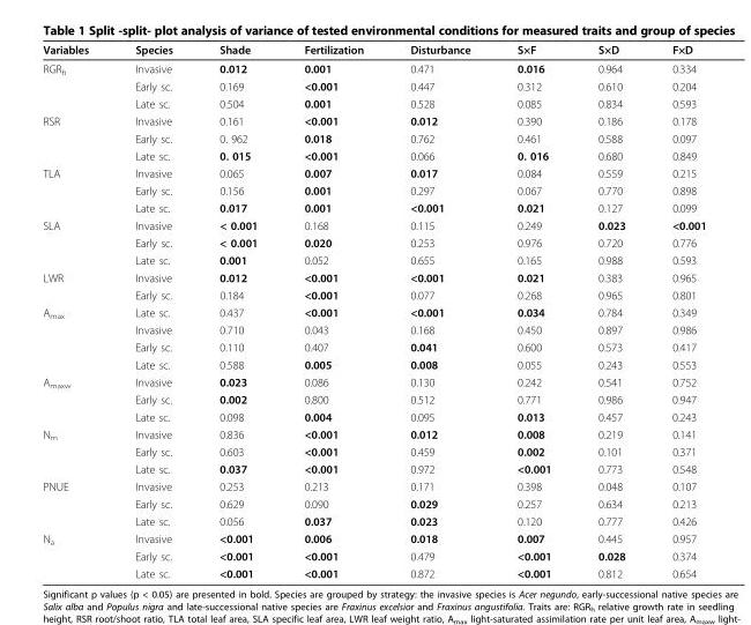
<table><thead><tr><td>Variables</td><td>Species</td><td>Shade</td><td>Fertilization</td><td>Disturbance</td><td>S×F</td><td>S×D</td><td>F×D</td></tr></thead><tbody><tr><td rowspan="3">RGR<sub>h</sub></td><td>Invasive</td><td>0.012</td><td>0.001</td><td>0.471</td><td>0.016</td><td>0.964</td><td>0.334</td></tr><tr><td>Early sc.</td><td>0.169</td><td>&lt;0.001</td><td>0.447</td><td>0.312</td><td>0.610</td><td>0.204</td></tr><tr><td>Late sc.</td><td>0.504</td><td>0.001</td><td>0.528</td><td>0.085</td><td>0.834</td><td>0.593</td></tr><tr><td rowspan="3">RSR</td><td>Invasive</td><td>0.161</td><td>&lt;0.001</td><td>0.012</td><td>0.390</td><td>0.186</td><td>0.178</td></tr><tr><td>Early sc.</td><td>0. 962</td><td>0.018</td><td>0.762</td><td>0.461</td><td>0.588</td><td>0.097</td></tr><tr><td>Late sc.</td><td>0. 015</td><td>&lt;0.001</td><td>0.066</td><td>0. 016</td><td>0.680</td><td>0.849</td></tr><tr><td rowspan="3">TLA</td><td>Invasive</td><td>0.065</td><td>0.007</td><td>0.017</td><td>0.084</td><td>0.559</td><td>0.215</td></tr><tr><td>Early sc.</td><td>0.156</td><td>0.001</td><td>0.297</td><td>0.067</td><td>0.770</td><td>0.898</td></tr><tr><td>Late sc.</td><td>0.017</td><td>0.001</td><td>&lt;0.001</td><td>0.021</td><td>0.127</td><td>0.099</td></tr><tr><td rowspan="3">SLA</td><td>Invasive</td><td>&lt; 0.001</td><td>0.168</td><td>0.115</td><td>0.249</td><td>0.023</td><td>&lt;0.001</td></tr><tr><td>Early sc.</td><td>&lt; 0.001</td><td>0.020</td><td>0.253</td><td>0.976</td><td>0.720</td><td>0.776</td></tr><tr><td>Late sc.</td><td>0.001</td><td>0.052</td><td>0.655</td><td>0.165</td><td>0.988</td><td>0.593</td></tr><tr><td rowspan="2">LWR</td><td>Invasive</td><td>0.012</td><td>&lt;0.001</td><td>&lt;0.001</td><td>0.021</td><td>0.383</td><td>0.965</td></tr><tr><td>Early sc.</td><td>0.184</td><td>&lt;0.001</td><td>0.077</td><td>0.268</td><td>0.965</td><td>0.801</td></tr><tr><td rowspan="4">A<sub>max</sub></td><td>Late sc.</td><td>0.437</td><td>&lt;0.001</td><td>&lt;0.001</td><td>0.034</td><td>0.784</td><td>0.349</td></tr><tr><td>Invasive</td><td>0.710</td><td>0.043</td><td>0.168</td><td>0.450</td><td>0.897</td><td>0.986</td></tr><tr><td>Early sc.</td><td>0.110</td><td>0.407</td><td>0.041</td><td>0.600</td><td>0.573</td><td>0.417</td></tr><tr><td>Late sc.</td><td>0.588</td><td>0.005</td><td>0.008</td><td>0.055</td><td>0.243</td><td>0.553</td></tr><tr><td rowspan="3">A<sub>maxw</sub></td><td>Invasive</td><td>0.023</td><td>0.086</td><td>0.130</td><td>0.242</td><td>0.541</td><td>0.752</td></tr><tr><td>Early sc.</td><td>0.002</td><td>0.800</td><td>0.512</td><td>0.771</td><td>0.986</td><td>0.947</td></tr><tr><td>Late sc.</td><td>0.098</td><td>0.004</td><td>0.095</td><td>0.013</td><td>0.457</td><td>0.243</td></tr><tr><td rowspan="3">N<sub>m</sub></td><td>Invasive</td><td>0.836</td><td>&lt;0.001</td><td>0.012</td><td>0.008</td><td>0.219</td><td>0.141</td></tr><tr><td>Early sc.</td><td>0.603</td><td>&lt;0.001</td><td>0.459</td><td>0.002</td><td>0.101</td><td>0.371</td></tr><tr><td>Late sc.</td><td>0.037</td><td>&lt;0.001</td><td>0.972</td><td>&lt;0.001</td><td>0.773</td><td>0.548</td></tr><tr><td rowspan="3">PNUE</td><td>Invasive</td><td>0.253</td><td>0.213</td><td>0.171</td><td>0.398</td><td>0.048</td><td>0.107</td></tr><tr><td>Early sc.</td><td>0.629</td><td>0.090</td><td>0.029</td><td>0.257</td><td>0.634</td><td>0.213</td></tr><tr><td>Late sc.</td><td>0.056</td><td>0.037</td><td>0.023</td><td>0.120</td><td>0.777</td><td>0.426</td></tr><tr><td rowspan="3">N<sub>a</sub></td><td>Invasive</td><td>&lt;0.001</td><td>0.006</td><td>0.018</td><td>0.007</td><td>0.445</td><td>0.957</td></tr><tr><td>Early sc.</td><td>&lt;0.001</td><td>&lt;0.001</td><td>0.479</td><td>&lt;0.001</td><td>0.028</td><td>0.374</td></tr><tr><td>Late sc.</td><td>&lt;0.001</td><td>&lt;0.001</td><td>0.872</td><td>&lt;0.001</td><td>0.812</td><td>0.654</td></tr></tbody></table>